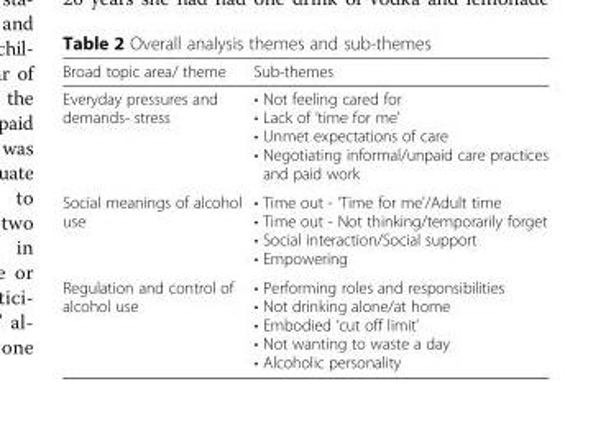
<table><thead><tr><td>Broad topic area/ theme</td><td>Sub-themes</td></tr></thead><tbody><tr><td>Everyday pressures and demands- stress</td><td>• Not feeling cared for • Lack of ‘time for me’ • Unmet expectations of care • Negotiating informal/unpaid care practices and paid work</td></tr><tr><td>Social meanings of alcohol use</td><td>• Time out - ‘Time for me’/Adult time • Time out - Not thinking/temporarily forget • Social interaction/Social support • Empowering</td></tr><tr><td>Regulation and control of alcohol use</td><td>• Performing roles and responsibilities • Not drinking alone/at home • Embodied ‘cut off limit’ • Not wanting to waste a day • Alcoholic personality</td></tr></tbody></table>